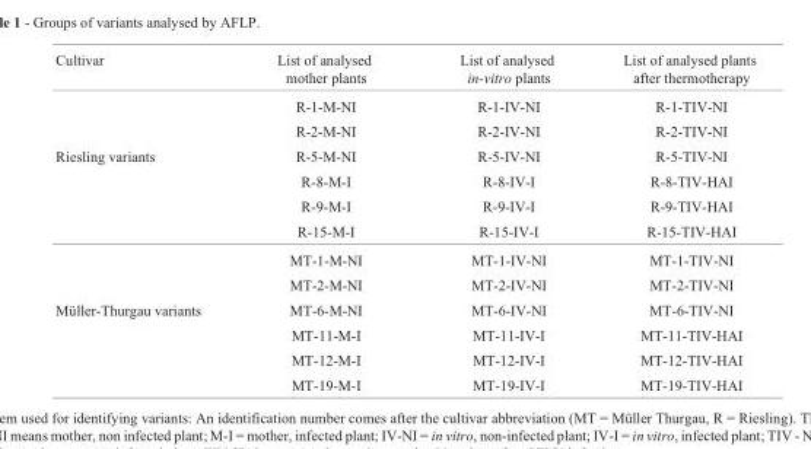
<table><thead><tr><td>Cultivar</td><td>List of analysed mother plants</td><td>List of analysed in-vitro plants</td><td>List of analysed plants after thermotherapy</td></tr></thead><tbody><tr><td></td><td>R-1-M-NI</td><td>R-1-IV-NI</td><td>R-1-TIV-NI</td></tr><tr><td></td><td>R-2-M-NI</td><td>R-2-IV-NI</td><td>R-2-TIV-NI</td></tr><tr><td rowspan="6">Riesling variants</td><td>R-5-M-NI</td><td>R-5-IV-NI</td><td>R-5-TIV-NI</td></tr><tr><td>R-8-M-I</td><td>R-8-IV-I</td><td>R-8-TIV-HAI</td></tr><tr><td>R-9-M-I</td><td>R-9-IV-I</td><td>R-9-TIV-HAI</td></tr><tr><td>R-15-M-I</td><td>R-15-IV-I</td><td>R-15-TIV-HAI</td></tr><tr><td>MT-1-M-NI</td><td>MT-1-IV-NI</td><td>MT-1-TIV-NI</td></tr><tr><td>MT-2-M-NI</td><td>MT-2-IV-NI</td><td>MT-2-TIV-NI</td></tr><tr><td rowspan="4">Müller-Thurgau variants</td><td>MT-6-M-NI</td><td>MT-6-IV-NI</td><td>MT-6-TIV-NI</td></tr><tr><td>MT-11-M-I</td><td>MT-11-IV-I</td><td>MT-11-TIV-HAI</td></tr><tr><td>MT-12-M-I</td><td>MT-12-IV-I</td><td>MT-12-TIV-HAI</td></tr><tr><td>MT-19-M-I</td><td>MT-19-IV-I</td><td>MT-19-TIV-HAI</td></tr></tbody></table>